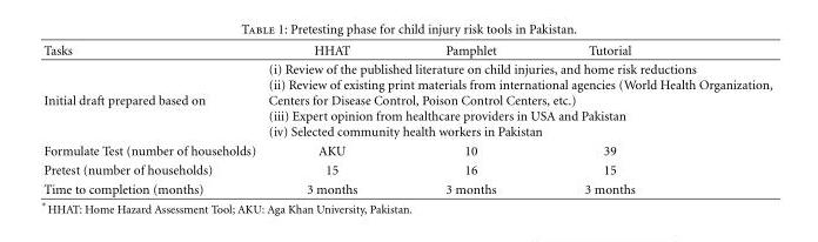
<table><thead><tr><td>Tasks</td><td>HHAT</td><td>Pamphlet</td><td>Tutorial</td></tr></thead><tbody><tr><td>Initial draft prepared based on</td><td colspan="3">(i) Review of the published literature on child injuries, and home risk reductions (ii) Review of existing print materials from international agencies (World Health Organization, Centers for Disease Control, Poison Control Centers, etc.) (iii) Expert opinion from healthcare providers in USA and Pakistan (iv) Selected community health workers in Pakistan</td></tr><tr><td>Formulate Test (number of households)</td><td>AKU</td><td>10</td><td>39</td></tr><tr><td>Pretest (number of households)</td><td>15</td><td>16</td><td>15</td></tr><tr><td>Time to completion (months)</td><td>3 months</td><td>3 months</td><td>3 months</td></tr></tbody></table>